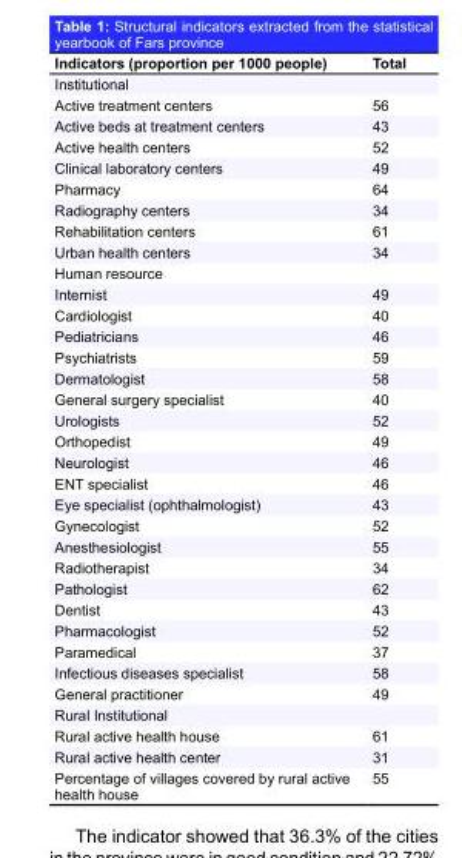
<table><thead><tr><td>Indicators (proportion per 1000 people)</td><td>Total</td></tr></thead><tbody><tr><td colspan="2">Institutional</td></tr><tr><td>Active treatment centers</td><td>56</td></tr><tr><td>Active beds at treatment centers</td><td>43</td></tr><tr><td>Active health centers</td><td>52</td></tr><tr><td>Clinical laboratory centers</td><td>49</td></tr><tr><td>Pharmacy</td><td>64</td></tr><tr><td>Radiography centers</td><td>34</td></tr><tr><td>Rehabilitation centers</td><td>61</td></tr><tr><td>Urban health centers</td><td>34</td></tr><tr><td colspan="2">Human resource</td></tr><tr><td>Internist</td><td>49</td></tr><tr><td>Cardiologist</td><td>40</td></tr><tr><td>Pediatricians</td><td>46</td></tr><tr><td>Psychiatrists</td><td>59</td></tr><tr><td>Dermatologist</td><td>58</td></tr><tr><td>General surgery specialist</td><td>40</td></tr><tr><td>Urologists</td><td>52</td></tr><tr><td>Orthopedist</td><td>49</td></tr><tr><td>Neurologist</td><td>46</td></tr><tr><td>ENT specialist</td><td>46</td></tr><tr><td>Eye specialist (ophthalmologist)</td><td>43</td></tr><tr><td>Gynecologist</td><td>52</td></tr><tr><td>Anesthesiologist</td><td>55</td></tr><tr><td>Radiotherapist</td><td>34</td></tr><tr><td>Pathologist</td><td>62</td></tr><tr><td>Dentist</td><td>43</td></tr><tr><td>Pharmacologist</td><td>52</td></tr><tr><td>Paramedical</td><td>37</td></tr><tr><td>Infectious diseases specialist</td><td>58</td></tr><tr><td>General practitioner</td><td>49</td></tr><tr><td colspan="2">Rural Institutional</td></tr><tr><td>Rural active health house</td><td>61</td></tr><tr><td>Rural active health center</td><td>31</td></tr><tr><td>Percentage of villages covered by rural active health house</td><td>55</td></tr></tbody></table>